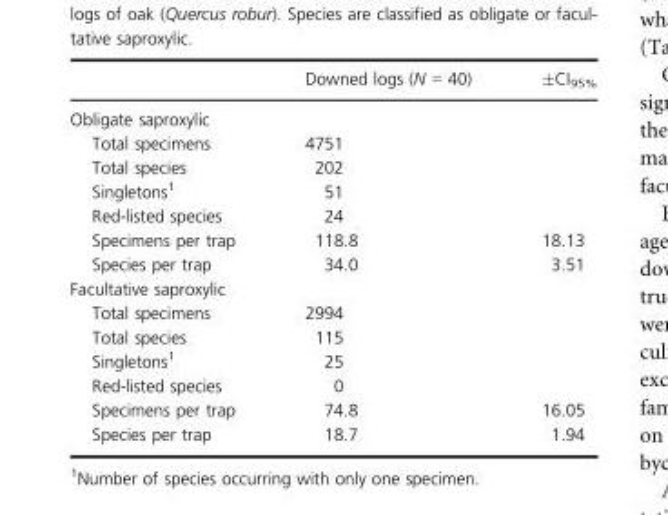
<table><thead><tr><td></td><td>Downed logs (N = 40)</td><td>±CI<sub>95%</sub></td></tr></thead><tbody><tr><td colspan="3">Obligate saproxylic</td></tr><tr><td>Total specimens</td><td>4751</td><td></td></tr><tr><td>Total species</td><td>202</td><td></td></tr><tr><td>Singletons1</td><td>51</td><td></td></tr><tr><td>Red-listed species</td><td>24</td><td></td></tr><tr><td>Specimens per trap</td><td>118.8</td><td>18.13</td></tr><tr><td>Species per trap</td><td>34.0</td><td>3.51</td></tr><tr><td colspan="3">Facultative saproxylic</td></tr><tr><td>Total specimens</td><td>2994</td><td></td></tr><tr><td>Total species</td><td>115</td><td></td></tr><tr><td>Singletons1</td><td>25</td><td></td></tr><tr><td>Red-listed species</td><td>0</td><td></td></tr><tr><td>Specimens per trap</td><td>74.8</td><td>16.05</td></tr><tr><td>Species per trap</td><td>18.7</td><td>1.94</td></tr></tbody></table>